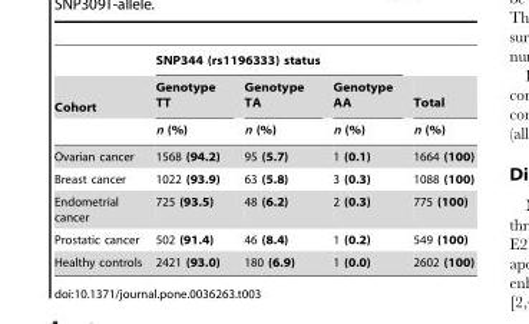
<table><thead><tr><td rowspan="3">Cohort</td><td colspan="3">SNP344 (rs1196333) status</td><td rowspan="3">Total n (%)</td></tr><tr><td rowspan="2">Genotype TT n (%)</td><td rowspan="2">Genotype TA n (%)</td><td rowspan="2">Genotype AA n (%)</td></tr><tr></tr></thead><tbody><tr><td>Ovarian cancer</td><td>1568 (94.2)</td><td>95 (5.7)</td><td>1 (0.1)</td><td>1664 (100)</td></tr><tr><td>Breast cancer</td><td>1022 (93.9)</td><td>63 (5.8)</td><td>3 (0.3)</td><td>1088 (100)</td></tr><tr><td>Endometrial cancer</td><td>725 (93.5)</td><td>48 (6.2)</td><td>2 (0.3)</td><td>775 (100)</td></tr><tr><td>Prostatic cancer</td><td>502 (91.4)</td><td>46 (8.4)</td><td>1 (0.2)</td><td>549 (100)</td></tr><tr><td>Healthy controls</td><td>2421 (93.0)</td><td>180 (6.9)</td><td>1 (0.0)</td><td>2602 (100)</td></tr></tbody></table>